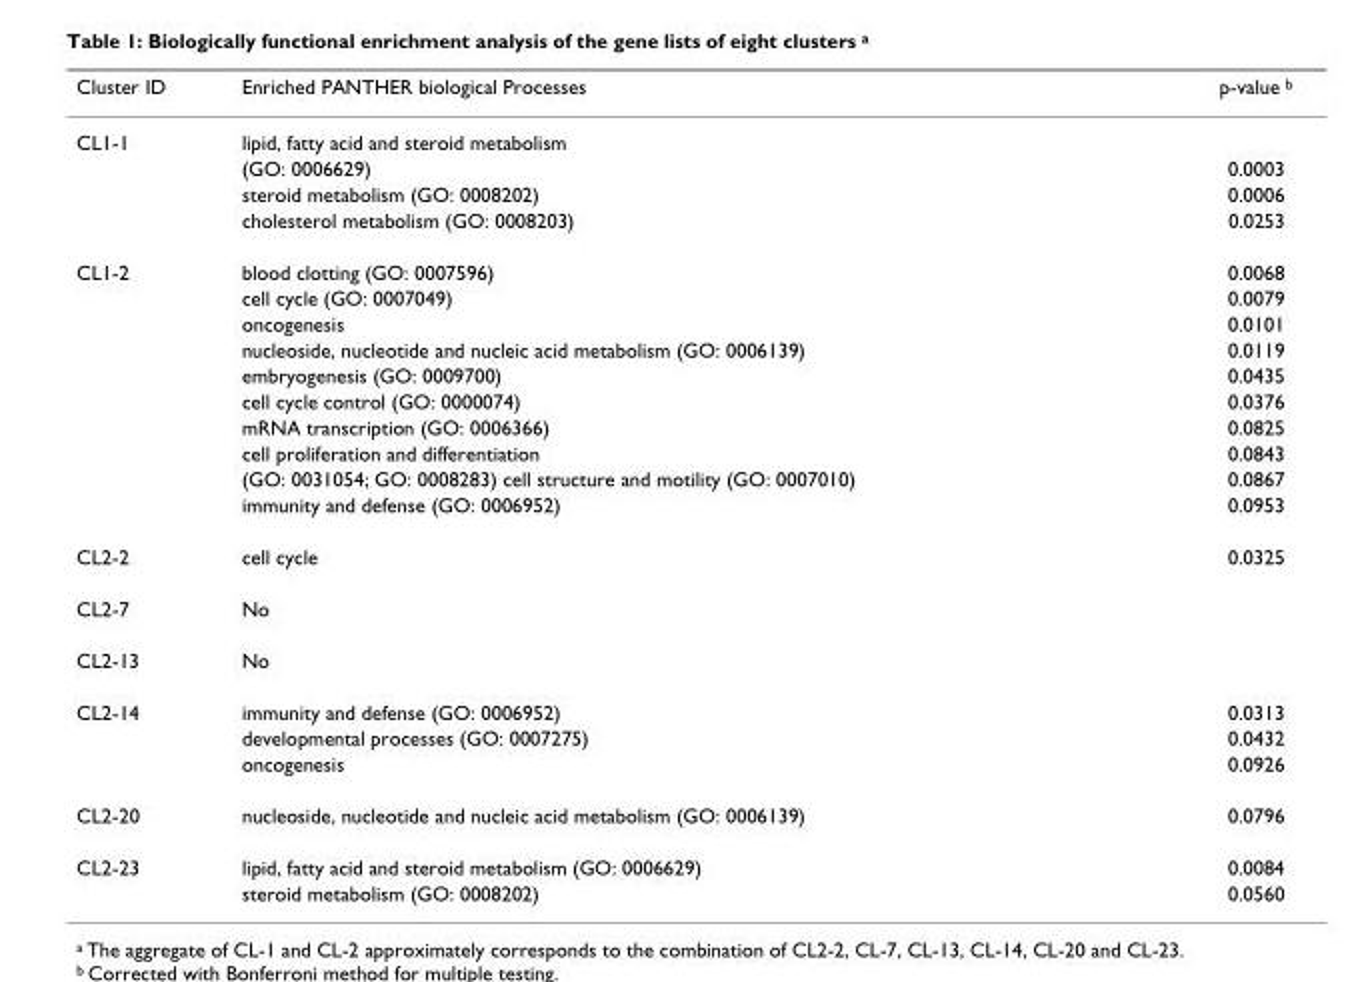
<table><thead><tr><td>Cluster ID</td><td>Enriched PANTHER biological Processes</td><td>p-value <sup>b</sup></td></tr></thead><tbody><tr><td rowspan="4">CL1-1</td><td>lipid, fatty acid and steroid metabolism</td><td></td></tr><tr><td>(GO: 0006629)</td><td>0.0003</td></tr><tr><td>steroid metabolism (GO: 0008202)</td><td>0.0006</td></tr><tr><td>cholesterol metabolism (GO: 0008203)</td><td>0.0253</td></tr><tr><td rowspan="10">CL1-2</td><td>blood clotting (GO: 0007596)</td><td>0.0068</td></tr><tr><td>cell cycle (GO: 0007049)</td><td>0.0079</td></tr><tr><td>oncogenesis</td><td>0.0101</td></tr><tr><td>nucleoside, nucleotide and nucleic acid metabolism (GO: 0006139)</td><td>0.0119</td></tr><tr><td>embryogenesis (GO: 0009700)</td><td>0.0435</td></tr><tr><td>cell cycle control (GO: 0000074)</td><td>0.0376</td></tr><tr><td>mRNA transcription (GO: 0006366)</td><td>0.0825</td></tr><tr><td>cell proliferation and differentiation</td><td>0.0843</td></tr><tr><td>(GO: 0031054; GO: 0008283) cell structure and motility (GO: 0007010)</td><td>0.0867</td></tr><tr><td>immunity and defense (GO: 0006952)</td><td>0.0953</td></tr><tr><td>CL2-2</td><td>cell cycle</td><td>0.0325</td></tr><tr><td>CL2-7</td><td>No</td><td></td></tr><tr><td>CL2-13</td><td>No</td><td></td></tr><tr><td rowspan="3">CL2-14</td><td>immunity and defense (GO: 0006952)</td><td>0.0313</td></tr><tr><td>developmental processes (GO: 0007275)</td><td>0.0432</td></tr><tr><td>oncogenesis</td><td>0.0926</td></tr><tr><td>CL2-20</td><td>nucleoside, nucleotide and nucleic acid metabolism (GO: 0006139)</td><td>0.0796</td></tr><tr><td rowspan="2">CL2-23</td><td>lipid, fatty acid and steroid metabolism (GO: 0006629)</td><td>0.0084</td></tr><tr><td>steroid metabolism (GO: 0008202)</td><td>0.0560</td></tr></tbody></table>